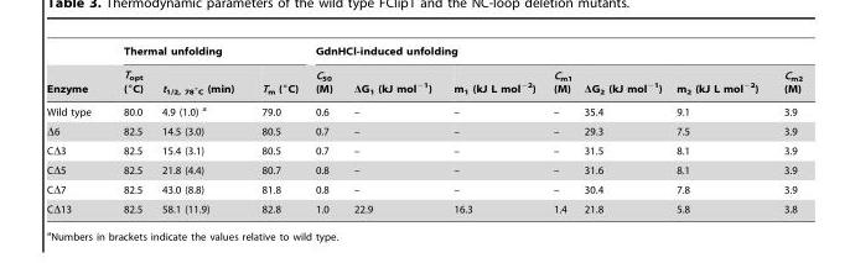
<table><thead><tr><td rowspan="2">Enzyme</td><td colspan="3">Thermal unfolding</td><td colspan="7">GdnHCl-induced unfolding</td></tr><tr><td>T<sub>opt</sub> (°C)</td><td>t<sub>1/2, 78°C</sub> (min)</td><td>T<sub>m</sub> (°C)</td><td>C<sub>50</sub> (M)</td><td>ΔG<sub>1</sub> (kJ mol<sup>−1</sup>)</td><td>m<sub>1</sub> (kJ L mol<sup>−2</sup>)</td><td>C<sub>m1</sub> (M)</td><td>ΔG<sub>2</sub> (kJ mol<sup>−1</sup>)</td><td>m<sub>2</sub> (kJ L mol<sup>−2</sup>)</td><td>C<sub>m2</sub> (M)</td></tr></thead><tbody><tr><td>Wild type</td><td>80.0</td><td>4.9 (1.0) a</td><td>79.0</td><td>0.6</td><td>–</td><td>–</td><td>–</td><td>35.4</td><td>9.1</td><td>3.9</td></tr><tr><td>Δ6</td><td>82.5</td><td>14.5 (3.0)</td><td>80.5</td><td>0.7</td><td>–</td><td>–</td><td>–</td><td>29.3</td><td>7.5</td><td>3.9</td></tr><tr><td>CΔ3</td><td>82.5</td><td>15.4 (3.1)</td><td>80.5</td><td>0.7</td><td>–</td><td>–</td><td>–</td><td>31.5</td><td>8.1</td><td>3.9</td></tr><tr><td>CΔ5</td><td>82.5</td><td>21.8 (4.4)</td><td>80.7</td><td>0.8</td><td>–</td><td>–</td><td>–</td><td>31.6</td><td>8.1</td><td>3.9</td></tr><tr><td>CΔ7</td><td>82.5</td><td>43.0 (8.8)</td><td>81.8</td><td>0.8</td><td>–</td><td>–</td><td>–</td><td>30.4</td><td>7.8</td><td>3.9</td></tr><tr><td>CΔ13</td><td>82.5</td><td>58.1 (11.9)</td><td>82.8</td><td>1.0</td><td>22.9</td><td>16.3</td><td>1.4</td><td>21.8</td><td>5.8</td><td>3.8</td></tr></tbody></table>